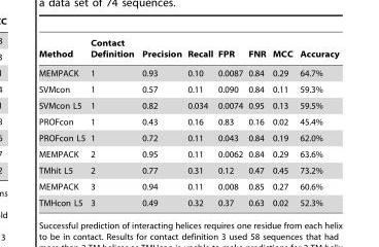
<table><thead><tr><td>Method</td><td>Contact Definition</td><td>Precision</td><td>Recall</td><td>FPR</td><td>FNR</td><td>MCC</td><td>Accuracy</td></tr></thead><tbody><tr><td>MEMPACK</td><td>1</td><td>0.93</td><td>0.10</td><td>0.0087</td><td>0.84</td><td>0.29</td><td>64.7%</td></tr><tr><td>SVMcon</td><td>1</td><td>0.57</td><td>0.11</td><td>0.090</td><td>0.84</td><td>0.11</td><td>59.3%</td></tr><tr><td>SVMcon L5</td><td>1</td><td>0.82</td><td>0.034</td><td>0.0074</td><td>0.95</td><td>0.13</td><td>59.5%</td></tr><tr><td>PROFcon</td><td>1</td><td>0.43</td><td>0.16</td><td>0.83</td><td>0.16</td><td>0.02</td><td>45.4%</td></tr><tr><td>PROFcon L5</td><td>1</td><td>0.72</td><td>0.11</td><td>0.043</td><td>0.84</td><td>0.19</td><td>62.0%</td></tr><tr><td>MEMPACK</td><td>2</td><td>0.95</td><td>0.11</td><td>0.0062</td><td>0.84</td><td>0.29</td><td>63.6%</td></tr><tr><td>TMhit L5</td><td>2</td><td>0.77</td><td>0.31</td><td>0.12</td><td>0.47</td><td>0.45</td><td>73.2%</td></tr><tr><td>MEMPACK</td><td>3</td><td>0.94</td><td>0.11</td><td>0.008</td><td>0.85</td><td>0.27</td><td>60.6%</td></tr><tr><td>TMHcon L5</td><td>3</td><td>0.49</td><td>0.32</td><td>0.37</td><td>0.63</td><td>0.02</td><td>52.3%</td></tr></tbody></table>